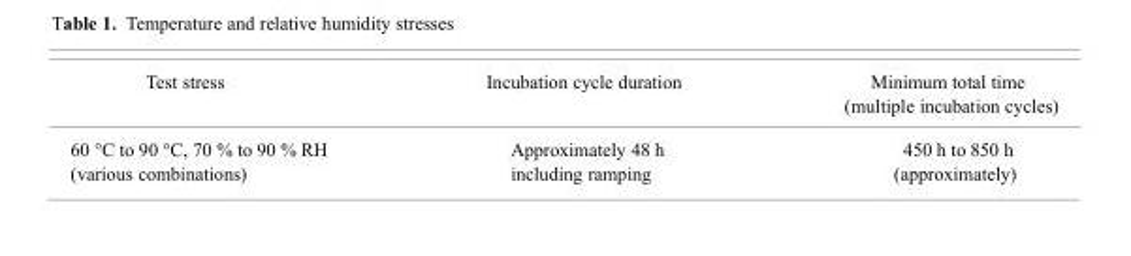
<table><thead><tr><td>Test stress</td><td>Incubation cycle duration</td><td>Minimum total time (multiple incubation cycles)</td></tr></thead><tbody><tr><td>60 °C to 90 °C, 70 % to 90 % RH (various combinations)</td><td>Approximately 48 h including ramping</td><td>450 h to 850 h (approximately)</td></tr></tbody></table>